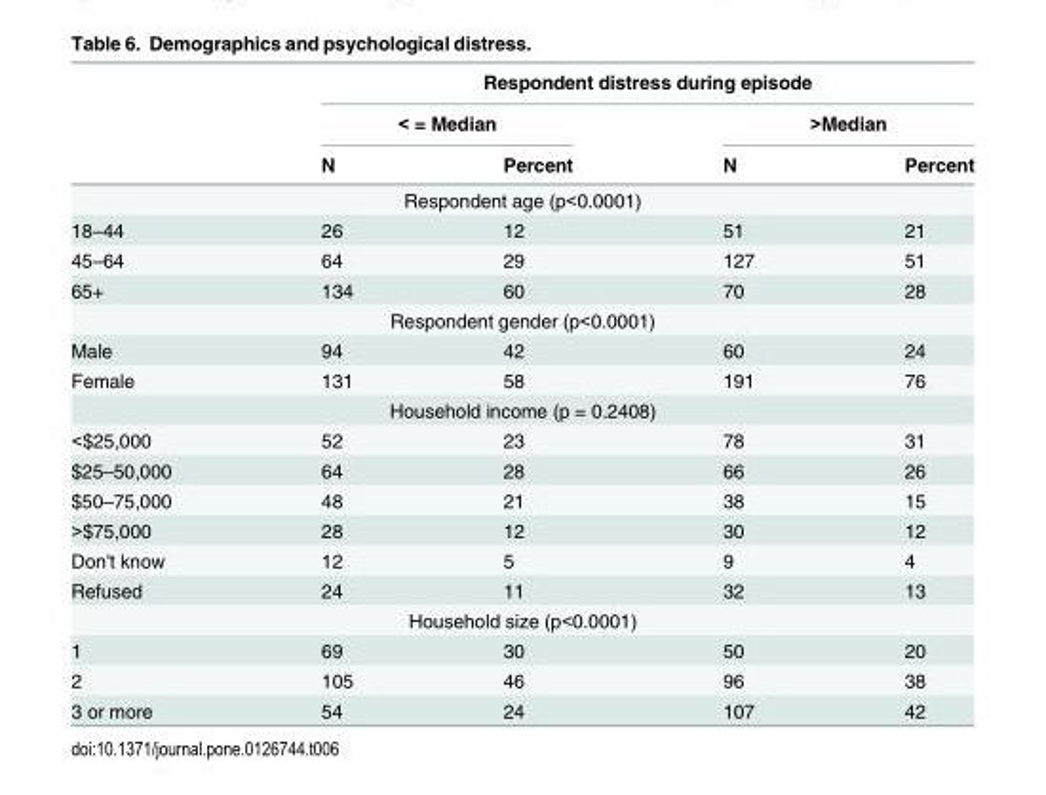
<table><thead><tr><td rowspan="3"></td><td colspan="4">Respondent distress during episode</td></tr><tr><td colspan="2">&lt; = Median</td><td colspan="2">&gt;Median</td></tr><tr><td>N</td><td>Percent</td><td>N</td><td>Percent</td></tr></thead><tbody><tr><td colspan="5">Respondent age (p&lt;0.0001)</td></tr><tr><td>18–44</td><td>26</td><td>12</td><td>51</td><td>21</td></tr><tr><td>45–64</td><td>64</td><td>29</td><td>127</td><td>51</td></tr><tr><td>65+</td><td>134</td><td>60</td><td>70</td><td>28</td></tr><tr><td colspan="5">Respondent gender (p&lt;0.0001)</td></tr><tr><td>Male</td><td>94</td><td>42</td><td>60</td><td>24</td></tr><tr><td>Female</td><td>131</td><td>58</td><td>191</td><td>76</td></tr><tr><td colspan="5">Household income (p = 0.2408)</td></tr><tr><td>&lt;$25,000</td><td>52</td><td>23</td><td>78</td><td>31</td></tr><tr><td>$25–50,000</td><td>64</td><td>28</td><td>66</td><td>26</td></tr><tr><td>$50–75,000</td><td>48</td><td>21</td><td>38</td><td>15</td></tr><tr><td>&gt;$75,000</td><td>28</td><td>12</td><td>30</td><td>12</td></tr><tr><td>Don&#x27;t know</td><td>12</td><td>5</td><td>9</td><td>4</td></tr><tr><td>Refused</td><td>24</td><td>11</td><td>32</td><td>13</td></tr><tr><td colspan="5">Household size (p&lt;0.0001)</td></tr><tr><td>1</td><td>69</td><td>30</td><td>50</td><td>20</td></tr><tr><td>2</td><td>105</td><td>46</td><td>96</td><td>38</td></tr><tr><td>3 or more</td><td>54</td><td>24</td><td>107</td><td>42</td></tr></tbody></table>